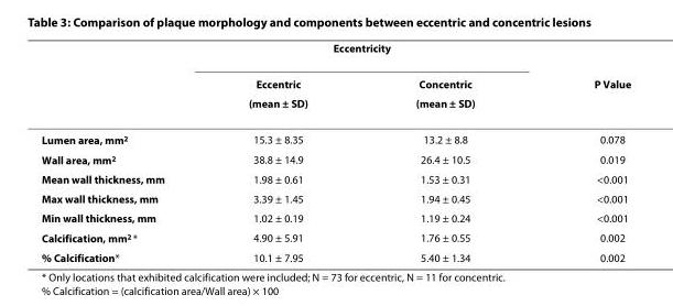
<table><thead><tr><td rowspan="3"></td><td colspan="2">Eccentricity</td><td rowspan="3">P Value</td></tr><tr><td rowspan="2">Eccentric (mean ± SD)</td><td rowspan="2">Concentric (mean ± SD)</td></tr><tr></tr></thead><tbody><tr><td>Lumen area, mm<sup>2</sup></td><td>15.3 ± 8.35</td><td>13.2 ± 8.8</td><td>0.078</td></tr><tr><td>Wall area, mm<sup>2</sup></td><td>38.8 ± 14.9</td><td>26.4 ± 10.5</td><td>0.019</td></tr><tr><td>Mean wall thickness, mm</td><td>1.98 ± 0.61</td><td>1.53 ± 0.31</td><td>&lt;0.001</td></tr><tr><td>Max wall thickness, mm</td><td>3.39 ± 1.45</td><td>1.94 ± 0.45</td><td>&lt;0.001</td></tr><tr><td>Min wall thickness, mm</td><td>1.02 ± 0.19</td><td>1.19 ± 0.24</td><td>&lt;0.001</td></tr><tr><td>Calcification, mm<sup>2</sup> *</td><td>4.90 ± 5.91</td><td>1.76 ± 0.55</td><td>0.002</td></tr><tr><td>% Calcification*</td><td>10.1 ± 7.95</td><td>5.40 ± 1.34</td><td>0.002</td></tr></tbody></table>